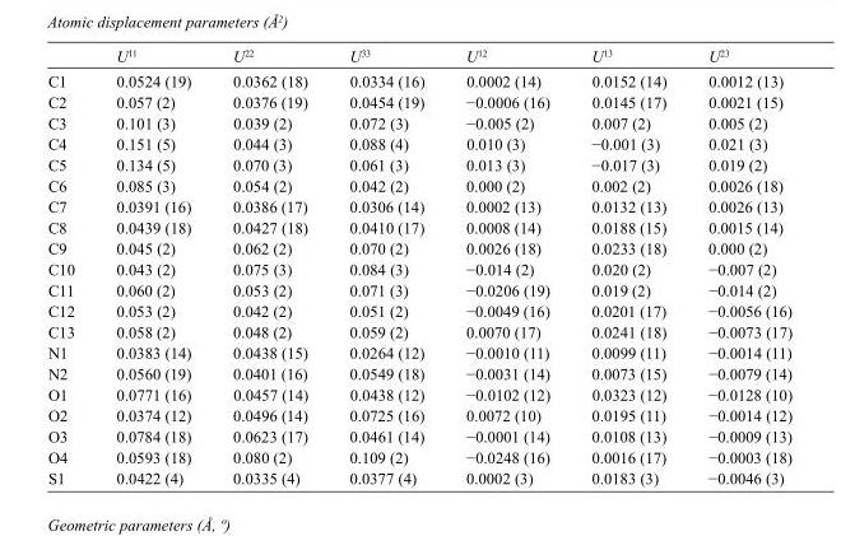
<table><thead><tr><td></td><td>U<sup>11</sup></td><td>U<sup>22</sup></td><td>U<sup>33</sup></td><td>U<sup>12</sup></td><td>U<sup>13</sup></td><td>U<sup>23</sup></td></tr></thead><tbody><tr><td>C1</td><td>0.0524 (19)</td><td>0.0362 (18)</td><td>0.0334 (16)</td><td>0.0002 (14)</td><td>0.0152 (14)</td><td>0.0012 (13)</td></tr><tr><td>C2</td><td>0.057 (2)</td><td>0.0376 (19)</td><td>0.0454 (19)</td><td>−0.0006 (16)</td><td>0.0145 (17)</td><td>0.0021 (15)</td></tr><tr><td>C3</td><td>0.101 (3)</td><td>0.039 (2)</td><td>0.072 (3)</td><td>−0.005 (2)</td><td>0.007 (2)</td><td>0.005 (2)</td></tr><tr><td>C4</td><td>0.151 (5)</td><td>0.044 (3)</td><td>0.088 (4)</td><td>0.010 (3)</td><td>−0.001 (3)</td><td>0.021 (3)</td></tr><tr><td>C5</td><td>0.134 (5)</td><td>0.070 (3)</td><td>0.061 (3)</td><td>0.013 (3)</td><td>−0.017 (3)</td><td>0.019 (2)</td></tr><tr><td>C6</td><td>0.085 (3)</td><td>0.054 (2)</td><td>0.042 (2)</td><td>0.000 (2)</td><td>0.002 (2)</td><td>0.0026 (18)</td></tr><tr><td>C7</td><td>0.0391 (16)</td><td>0.0386 (17)</td><td>0.0306 (14)</td><td>0.0002 (13)</td><td>0.0132 (13)</td><td>0.0026 (13)</td></tr><tr><td>C8</td><td>0.0439 (18)</td><td>0.0427 (18)</td><td>0.0410 (17)</td><td>0.0008 (14)</td><td>0.0188 (15)</td><td>0.0015 (14)</td></tr><tr><td>C9</td><td>0.045 (2)</td><td>0.062 (2)</td><td>0.070 (2)</td><td>0.0026 (18)</td><td>0.0233 (18)</td><td>0.000 (2)</td></tr><tr><td>C10</td><td>0.043 (2)</td><td>0.075 (3)</td><td>0.084 (3)</td><td>−0.014 (2)</td><td>0.020 (2)</td><td>−0.007 (2)</td></tr><tr><td>C11</td><td>0.060 (2)</td><td>0.053 (2)</td><td>0.071 (3)</td><td>−0.0206 (19)</td><td>0.019 (2)</td><td>−0.014 (2)</td></tr><tr><td>C12</td><td>0.053 (2)</td><td>0.042 (2)</td><td>0.051 (2)</td><td>−0.0049 (16)</td><td>0.0201 (17)</td><td>−0.0056 (16)</td></tr><tr><td>C13</td><td>0.058 (2)</td><td>0.048 (2)</td><td>0.059 (2)</td><td>0.0070 (17)</td><td>0.0241 (18)</td><td>−0.0073 (17)</td></tr><tr><td>N1</td><td>0.0383 (14)</td><td>0.0438 (15)</td><td>0.0264 (12)</td><td>−0.0010 (11)</td><td>0.0099 (11)</td><td>−0.0014 (11)</td></tr><tr><td>N2</td><td>0.0560 (19)</td><td>0.0401 (16)</td><td>0.0549 (18)</td><td>−0.0031 (14)</td><td>0.0073 (15)</td><td>−0.0079 (14)</td></tr><tr><td>O1</td><td>0.0771 (16)</td><td>0.0457 (14)</td><td>0.0438 (12)</td><td>−0.0102 (12)</td><td>0.0323 (12)</td><td>−0.0128 (10)</td></tr><tr><td>O2</td><td>0.0374 (12)</td><td>0.0496 (14)</td><td>0.0725 (16)</td><td>0.0072 (10)</td><td>0.0195 (11)</td><td>−0.0014 (12)</td></tr><tr><td>O3</td><td>0.0784 (18)</td><td>0.0623 (17)</td><td>0.0461 (14)</td><td>−0.0001 (14)</td><td>0.0108 (13)</td><td>−0.0009 (13)</td></tr><tr><td>O4</td><td>0.0593 (18)</td><td>0.080 (2)</td><td>0.109 (2)</td><td>−0.0248 (16)</td><td>0.0016 (17)</td><td>−0.0003 (18)</td></tr><tr><td>S1</td><td>0.0422 (4)</td><td>0.0335 (4)</td><td>0.0377 (4)</td><td>0.0002 (3)</td><td>0.0183 (3)</td><td>−0.0046 (3)</td></tr></tbody></table>